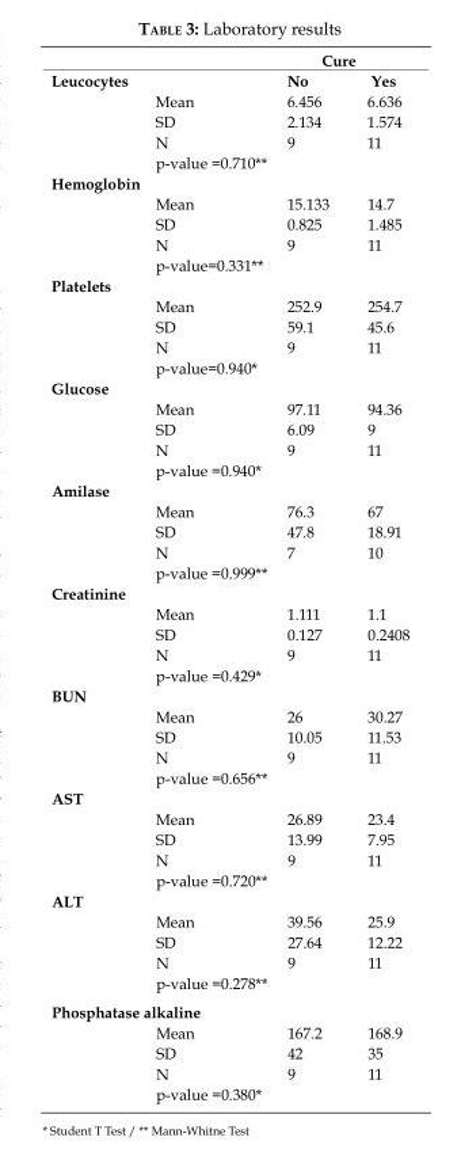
<table><thead><tr><td rowspan="2">Leucocytes</td><td rowspan="2"></td><td colspan="2">Cure</td></tr><tr><td>No</td><td>Yes</td></tr></thead><tbody><tr><td></td><td>Mean</td><td>6.456</td><td>6.636</td></tr><tr><td></td><td>SD</td><td>2.134</td><td>1.574</td></tr><tr><td></td><td>N</td><td>9</td><td>11</td></tr><tr><td></td><td>p-value =0.710**</td><td></td><td></td></tr><tr><td colspan="4">Hemoglobin</td></tr><tr><td></td><td>Mean</td><td>15.133</td><td>14.7</td></tr><tr><td></td><td>SD</td><td>0.825</td><td>1.485</td></tr><tr><td></td><td>N</td><td>9</td><td>11</td></tr><tr><td></td><td>p-value=0.331**</td><td></td><td></td></tr><tr><td colspan="4">Platelets</td></tr><tr><td></td><td>Mean</td><td>252.9</td><td>254.7</td></tr><tr><td></td><td>SD</td><td>59.1</td><td>45.6</td></tr><tr><td></td><td>N</td><td>9</td><td>11</td></tr><tr><td></td><td>p-value=0.940*</td><td></td><td></td></tr><tr><td colspan="4">Glucose</td></tr><tr><td></td><td>Mean</td><td>97.11</td><td>94.36</td></tr><tr><td></td><td>SD</td><td>6.09</td><td>9</td></tr><tr><td></td><td>N</td><td>9</td><td>11</td></tr><tr><td></td><td>p-value =0.940*</td><td></td><td></td></tr><tr><td colspan="4">Amilase</td></tr><tr><td></td><td>Mean</td><td>76.3</td><td>67</td></tr><tr><td></td><td>SD</td><td>47.8</td><td>18.91</td></tr><tr><td></td><td>N</td><td>7</td><td>10</td></tr><tr><td></td><td>p-value =0.999**</td><td></td><td></td></tr><tr><td colspan="4">Creatinine</td></tr><tr><td></td><td>Mean</td><td>1.111</td><td>1.1</td></tr><tr><td></td><td>SD</td><td>0.127</td><td>0.2408</td></tr><tr><td></td><td>N</td><td>9</td><td>11</td></tr><tr><td></td><td>p-value =0.429*</td><td></td><td></td></tr><tr><td colspan="4">BUN</td></tr><tr><td></td><td>Mean</td><td>26</td><td>30.27</td></tr><tr><td></td><td>SD</td><td>10.05</td><td>11.53</td></tr><tr><td></td><td>N</td><td>9</td><td>11</td></tr><tr><td></td><td>p-value =0.656**</td><td></td><td></td></tr><tr><td colspan="4">AST</td></tr><tr><td></td><td>Mean</td><td>26.89</td><td>23.4</td></tr><tr><td></td><td>SD</td><td>13.99</td><td>7.95</td></tr><tr><td></td><td>N</td><td>9</td><td>11</td></tr><tr><td></td><td>p-value =0.720**</td><td></td><td></td></tr><tr><td colspan="4">ALT</td></tr><tr><td></td><td>Mean</td><td>39.56</td><td>25.9</td></tr><tr><td></td><td>SD</td><td>27.64</td><td>12.22</td></tr><tr><td></td><td>N</td><td>9</td><td>11</td></tr><tr><td></td><td>p-value =0.278**</td><td></td><td></td></tr><tr><td colspan="4">Phosphatase alkaline</td></tr><tr><td></td><td>Mean</td><td>167.2</td><td>168.9</td></tr><tr><td></td><td>SD</td><td>42</td><td>35</td></tr><tr><td></td><td>N</td><td>9</td><td>11</td></tr><tr><td></td><td>p-value =0.380*</td><td></td><td></td></tr></tbody></table>